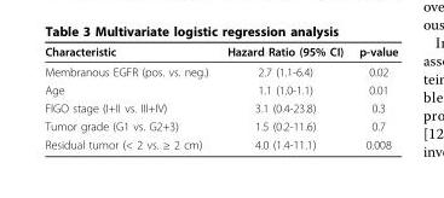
<table><thead><tr><td>Characteristic</td><td>Hazard Ratio (95% CI)</td><td>p-value</td></tr></thead><tbody><tr><td>Membranous EGFR (pos. vs. neg.)</td><td>2.7 (1.1-6.4)</td><td>0.02</td></tr><tr><td>Age</td><td>1.1 (1.0-1.1)</td><td>0.01</td></tr><tr><td>FIGO stage (I+II vs. III+IV)</td><td>3.1 (0.4-23.8)</td><td>0.3</td></tr><tr><td>Tumor grade (G1 vs. G2+3)</td><td>1.5 (0.2-11.6)</td><td>0.7</td></tr><tr><td>Residual tumor (&lt; 2 vs. ≥ 2 cm)</td><td>4.0 (1.4-11.1)</td><td>0.008</td></tr></tbody></table>